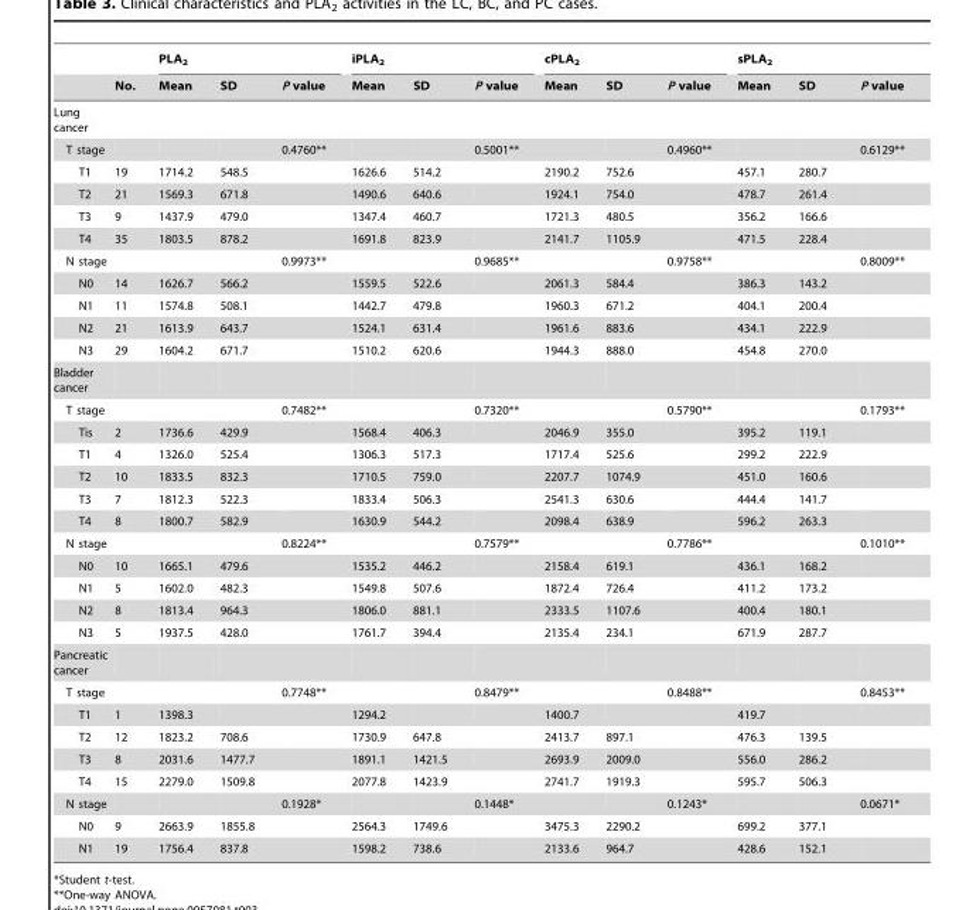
<table><thead><tr><td rowspan="2"></td><td rowspan="2">No.</td><td colspan="3">PLA<sub>2</sub></td><td colspan="3">iPLA<sub>2</sub></td><td colspan="3">cPLA<sub>2</sub></td><td colspan="3">sPLA<sub>2</sub></td></tr><tr><td>Mean</td><td>SD</td><td>P value</td><td>Mean</td><td>SD</td><td>P value</td><td>Mean</td><td>SD</td><td>P value</td><td>Mean</td><td>SD</td><td>P value</td></tr></thead><tbody><tr><td colspan="14">Lung cancer</td></tr><tr><td>T stage</td><td></td><td></td><td></td><td>0.4760**</td><td></td><td></td><td>0.5001**</td><td></td><td></td><td>0.4960**</td><td></td><td></td><td>0.6129**</td></tr><tr><td>T1</td><td>19</td><td>1714.2</td><td>548.5</td><td></td><td>1626.6</td><td>514.2</td><td></td><td>2190.2</td><td>752.6</td><td></td><td>457.1</td><td>280.7</td><td></td></tr><tr><td>T2</td><td>21</td><td>1569.3</td><td>671.8</td><td></td><td>1490.6</td><td>640.6</td><td></td><td>1924.1</td><td>754.0</td><td></td><td>478.7</td><td>261.4</td><td></td></tr><tr><td>T3</td><td>9</td><td>1437.9</td><td>479.0</td><td></td><td>1347.4</td><td>460.7</td><td></td><td>1721.3</td><td>480.5</td><td></td><td>356.2</td><td>166.6</td><td></td></tr><tr><td>T4</td><td>35</td><td>1803.5</td><td>878.2</td><td></td><td>1691.8</td><td>823.9</td><td></td><td>2141.7</td><td>1105.9</td><td></td><td>471.5</td><td>228.4</td><td></td></tr><tr><td>N stage</td><td></td><td></td><td></td><td>0.9973**</td><td></td><td></td><td>0.9685**</td><td></td><td></td><td>0.9758**</td><td></td><td></td><td>0.8009**</td></tr><tr><td>N0</td><td>14</td><td>1626.7</td><td>566.2</td><td></td><td>1559.5</td><td>522.6</td><td></td><td>2061.3</td><td>584.4</td><td></td><td>386.3</td><td>143.2</td><td></td></tr><tr><td>N1</td><td>11</td><td>1574.8</td><td>508.1</td><td></td><td>1442.7</td><td>479.8</td><td></td><td>1960.3</td><td>671.2</td><td></td><td>404.1</td><td>200.4</td><td></td></tr><tr><td>N2</td><td>21</td><td>1613.9</td><td>643.7</td><td></td><td>1524.1</td><td>631.4</td><td></td><td>1961.6</td><td>883.6</td><td></td><td>434.1</td><td>222.9</td><td></td></tr><tr><td>N3</td><td>29</td><td>1604.2</td><td>671.7</td><td></td><td>1510.2</td><td>620.6</td><td></td><td>1944.3</td><td>888.0</td><td></td><td>454.8</td><td>270.0</td><td></td></tr><tr><td colspan="14">Bladder cancer</td></tr><tr><td>T stage</td><td></td><td></td><td></td><td>0.7482**</td><td></td><td></td><td>0.7320**</td><td></td><td></td><td>0.5790**</td><td></td><td></td><td>0.1793**</td></tr><tr><td>Tis</td><td>2</td><td>1736.6</td><td>429.9</td><td></td><td>1568.4</td><td>406.3</td><td></td><td>2046.9</td><td>355.0</td><td></td><td>395.2</td><td>119.1</td><td></td></tr><tr><td>T1</td><td>4</td><td>1326.0</td><td>525.4</td><td></td><td>1306.3</td><td>517.3</td><td></td><td>1717.4</td><td>525.6</td><td></td><td>299.2</td><td>222.9</td><td></td></tr><tr><td>T2</td><td>10</td><td>1833.5</td><td>832.3</td><td></td><td>1710.5</td><td>759.0</td><td></td><td>2207.7</td><td>1074.9</td><td></td><td>451.0</td><td>160.6</td><td></td></tr><tr><td>T3</td><td>7</td><td>1812.3</td><td>522.3</td><td></td><td>1833.4</td><td>506.3</td><td></td><td>2541.3</td><td>630.6</td><td></td><td>444.4</td><td>141.7</td><td></td></tr><tr><td>T4</td><td>8</td><td>1800.7</td><td>582.9</td><td></td><td>1630.9</td><td>544.2</td><td></td><td>2098.4</td><td>638.9</td><td></td><td>596.2</td><td>263.3</td><td></td></tr><tr><td>N stage</td><td></td><td></td><td></td><td>0.8224**</td><td></td><td></td><td>0.7579**</td><td></td><td></td><td>0.7786**</td><td></td><td></td><td>0.1010**</td></tr><tr><td>N0</td><td>10</td><td>1665.1</td><td>479.6</td><td></td><td>1535.2</td><td>446.2</td><td></td><td>2158.4</td><td>619.1</td><td></td><td>436.1</td><td>168.2</td><td></td></tr><tr><td>N1</td><td>5</td><td>1602.0</td><td>482.3</td><td></td><td>1549.8</td><td>507.6</td><td></td><td>1872.4</td><td>726.4</td><td></td><td>411.2</td><td>173.2</td><td></td></tr><tr><td>N2</td><td>8</td><td>1813.4</td><td>964.3</td><td></td><td>1806.0</td><td>881.1</td><td></td><td>2333.5</td><td>1107.6</td><td></td><td>400.4</td><td>180.1</td><td></td></tr><tr><td>N3</td><td>5</td><td>1937.5</td><td>428.0</td><td></td><td>1761.7</td><td>394.4</td><td></td><td>2135.4</td><td>234.1</td><td></td><td>671.9</td><td>287.7</td><td></td></tr><tr><td colspan="14">Pancreatic cancer</td></tr><tr><td>T stage</td><td></td><td></td><td></td><td>0.7748**</td><td></td><td></td><td>0.8479**</td><td></td><td></td><td>0.8488**</td><td></td><td></td><td>0.8453**</td></tr><tr><td>T1</td><td>1</td><td>1398.3</td><td></td><td></td><td>1294.2</td><td></td><td></td><td>1400.7</td><td></td><td></td><td>419.7</td><td></td><td></td></tr><tr><td>T2</td><td>12</td><td>1823.2</td><td>708.6</td><td></td><td>1730.9</td><td>647.8</td><td></td><td>2413.7</td><td>897.1</td><td></td><td>476.3</td><td>139.5</td><td></td></tr><tr><td>T3</td><td>8</td><td>2031.6</td><td>1477.7</td><td></td><td>1891.1</td><td>1421.5</td><td></td><td>2693.9</td><td>2009.0</td><td></td><td>556.0</td><td>286.2</td><td></td></tr><tr><td>T4</td><td>15</td><td>2279.0</td><td>1509.8</td><td></td><td>2077.8</td><td>1423.9</td><td></td><td>2741.7</td><td>1919.3</td><td></td><td>595.7</td><td>506.3</td><td></td></tr><tr><td>N stage</td><td></td><td></td><td></td><td>0.1928*</td><td></td><td></td><td>0.1448*</td><td></td><td></td><td>0.1243*</td><td></td><td></td><td>0.0671*</td></tr><tr><td>N0</td><td>9</td><td>2663.9</td><td>1855.8</td><td></td><td>2564.3</td><td>1749.6</td><td></td><td>3475.3</td><td>2290.2</td><td></td><td>699.2</td><td>377.1</td><td></td></tr><tr><td>N1</td><td>19</td><td>1756.4</td><td>837.8</td><td></td><td>1598.2</td><td>738.6</td><td></td><td>2133.6</td><td>964.7</td><td></td><td>428.6</td><td>152.1</td><td></td></tr></tbody></table>